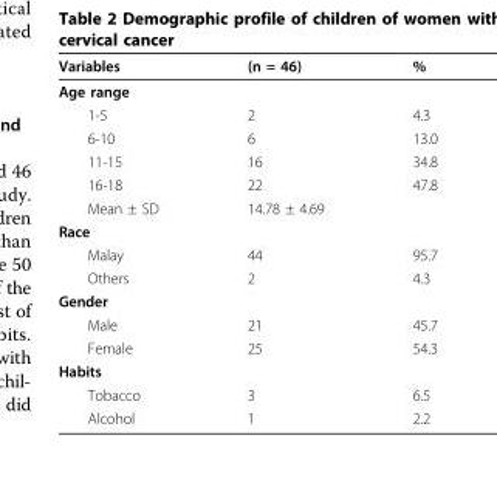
<table><thead><tr><td>Variables</td><td>(n = 46)</td><td>%</td></tr></thead><tbody><tr><td colspan="3">Age range</td></tr><tr><td>1-5</td><td>2</td><td>4.3</td></tr><tr><td>6-10</td><td>6</td><td>13.0</td></tr><tr><td>11-15</td><td>16</td><td>34.8</td></tr><tr><td>16-18</td><td>22</td><td>47.8</td></tr><tr><td>Mean ± SD</td><td>14.78 ± 4.69</td><td></td></tr><tr><td colspan="3">Race</td></tr><tr><td>Malay</td><td>44</td><td>95.7</td></tr><tr><td>Others</td><td>2</td><td>4.3</td></tr><tr><td colspan="3">Gender</td></tr><tr><td>Male</td><td>21</td><td>45.7</td></tr><tr><td>Female</td><td>25</td><td>54.3</td></tr><tr><td colspan="3">Habits</td></tr><tr><td>Tobacco</td><td>3</td><td>6.5</td></tr><tr><td>Alcohol</td><td>1</td><td>2.2</td></tr></tbody></table>